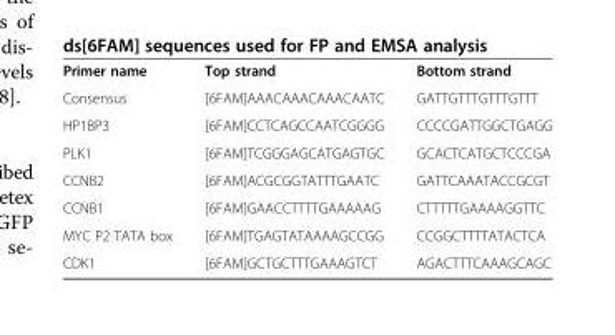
<table><tbody><tr><td>Primer name</td><td>Top strand</td><td>Bottom strand</td></tr><tr><td>Consensus</td><td>[6FAM]AAACAAACAAACAATC</td><td>GATTGTTTGTTTGTTT</td></tr><tr><td>HP1BP3</td><td>[6FAM]CCTCAGCCAATCGGGG</td><td>CCCCGATTGGCTGAGG</td></tr><tr><td>PLK1</td><td>[6FAM]TCGGGAGCATGAGTGC</td><td>GCACTCATGCTCCCGA</td></tr><tr><td>CCNB2</td><td>[6FAM]ACGCGGTATTTGAATC</td><td>GATTCAAATACCGCGT</td></tr><tr><td>CCNB1</td><td>[6FAM]GAACCTTTTGAAAAAG</td><td>CTTTTTGAAAAGGTTC</td></tr><tr><td>MYC P2 TATA box</td><td>[6FAM]TGAGTATAAAAGCCGG</td><td>CCGGCTTTTATACTCA</td></tr><tr><td>CDK1</td><td>[6FAM]GCTGCTTTGAAAGTCT</td><td>AGACTTTCAAAGCAGC</td></tr></tbody></table>